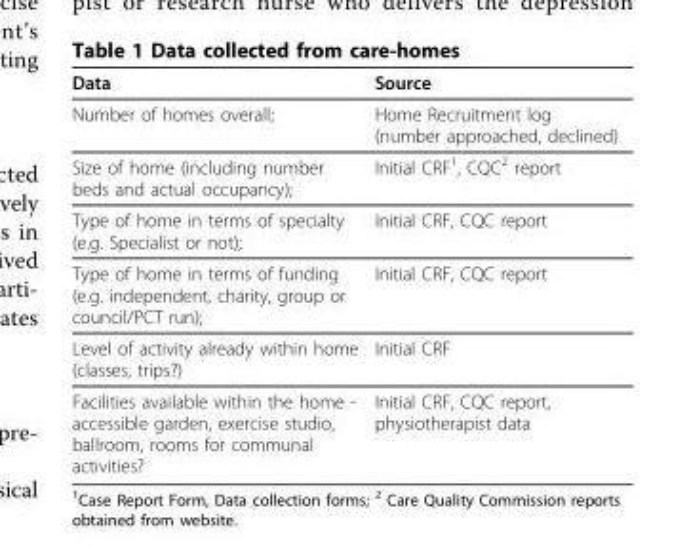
<table><thead><tr><td>Data</td><td>Source</td></tr></thead><tbody><tr><td>Number of homes overall;</td><td>Home Recruitment log (number approached, declined)</td></tr><tr><td>Size of home (including number beds and actual occupancy);</td><td>Initial CRF<sup>1</sup>, CQC<sup>2</sup> report</td></tr><tr><td>Type of home in terms of specialty (e.g. Specialist or not);</td><td>Initial CRF, CQC report</td></tr><tr><td>Type of home in terms of funding (e.g. independent, charity, group or council/PCT run);</td><td>Initial CRF, CQC report</td></tr><tr><td>Level of activity already within home (classes, trips?)</td><td>Initial CRF</td></tr><tr><td>Facilities available within the home - accessible garden, exercise studio, ballroom, rooms for communal activities?</td><td>Initial CRF, CQC report, physiotherapist data</td></tr></tbody></table>